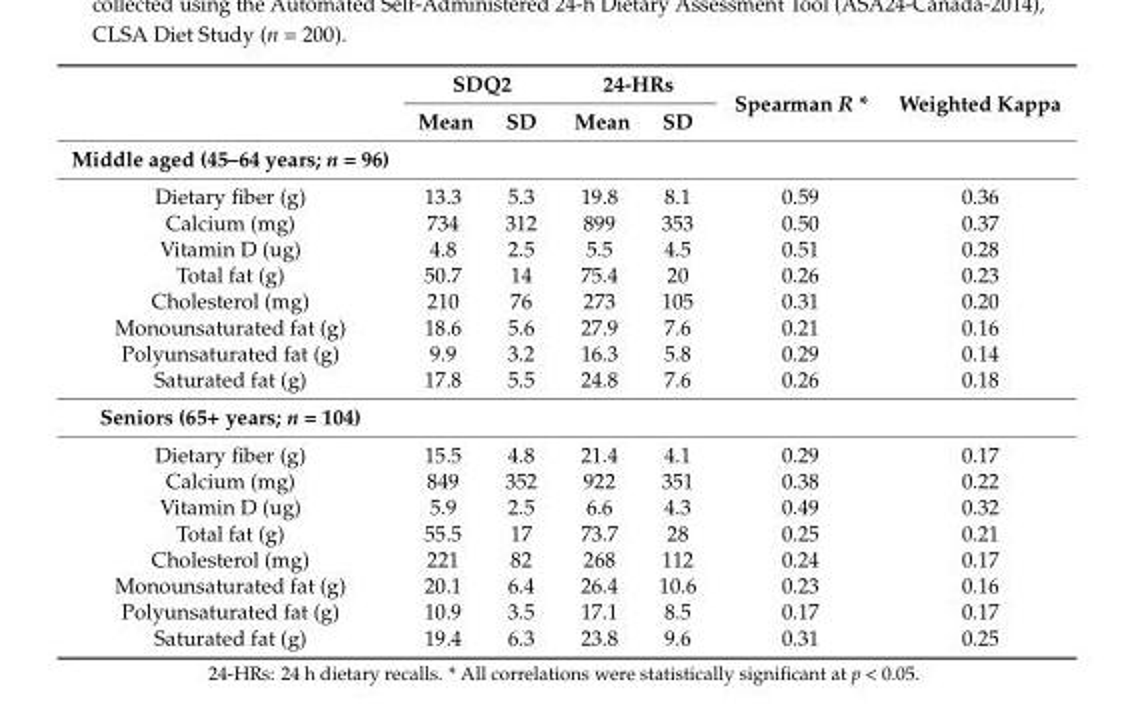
<table><thead><tr><td rowspan="2"></td><td colspan="2">SDQ2</td><td colspan="2">24-HRs</td><td rowspan="2">Spearman R *</td><td rowspan="2">Weighted Kappa</td></tr><tr><td>Mean</td><td>SD</td><td>Mean</td><td>SD</td></tr></thead><tbody><tr><td colspan="7">Middle aged (45–64 years; n = 96)</td></tr><tr><td>Dietary fiber (g)</td><td>13.3</td><td>5.3</td><td>19.8</td><td>8.1</td><td>0.59</td><td>0.36</td></tr><tr><td>Calcium (mg)</td><td>734</td><td>312</td><td>899</td><td>353</td><td>0.50</td><td>0.37</td></tr><tr><td>Vitamin D (ug)</td><td>4.8</td><td>2.5</td><td>5.5</td><td>4.5</td><td>0.51</td><td>0.28</td></tr><tr><td>Total fat (g)</td><td>50.7</td><td>14</td><td>75.4</td><td>20</td><td>0.26</td><td>0.23</td></tr><tr><td>Cholesterol (mg)</td><td>210</td><td>76</td><td>273</td><td>105</td><td>0.31</td><td>0.20</td></tr><tr><td>Monounsaturated fat (g)</td><td>18.6</td><td>5.6</td><td>27.9</td><td>7.6</td><td>0.21</td><td>0.16</td></tr><tr><td>Polyunsaturated fat (g)</td><td>9.9</td><td>3.2</td><td>16.3</td><td>5.8</td><td>0.29</td><td>0.14</td></tr><tr><td>Saturated fat (g)</td><td>17.8</td><td>5.5</td><td>24.8</td><td>7.6</td><td>0.26</td><td>0.18</td></tr><tr><td colspan="7">Seniors (65+ years; n = 104)</td></tr><tr><td>Dietary fiber (g)</td><td>15.5</td><td>4.8</td><td>21.4</td><td>4.1</td><td>0.29</td><td>0.17</td></tr><tr><td>Calcium (mg)</td><td>849</td><td>352</td><td>922</td><td>351</td><td>0.38</td><td>0.22</td></tr><tr><td>Vitamin D (ug)</td><td>5.9</td><td>2.5</td><td>6.6</td><td>4.3</td><td>0.49</td><td>0.32</td></tr><tr><td>Total fat (g)</td><td>55.5</td><td>17</td><td>73.7</td><td>28</td><td>0.25</td><td>0.21</td></tr><tr><td>Cholesterol (mg)</td><td>221</td><td>82</td><td>268</td><td>112</td><td>0.24</td><td>0.17</td></tr><tr><td>Monounsaturated fat (g)</td><td>20.1</td><td>6.4</td><td>26.4</td><td>10.6</td><td>0.23</td><td>0.16</td></tr><tr><td>Polyunsaturated fat (g)</td><td>10.9</td><td>3.5</td><td>17.1</td><td>8.5</td><td>0.17</td><td>0.17</td></tr><tr><td>Saturated fat (g)</td><td>19.4</td><td>6.3</td><td>23.8</td><td>9.6</td><td>0.31</td><td>0.25</td></tr></tbody></table>